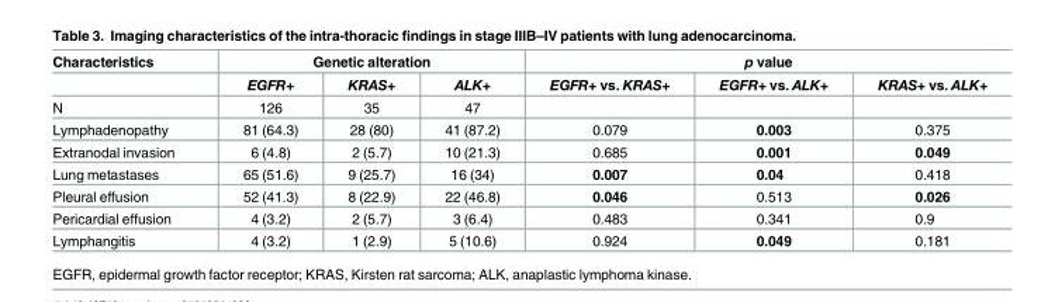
<table><thead><tr><td rowspan="2">Characteristics</td><td colspan="3">Genetic alteration</td><td colspan="3">p value</td></tr><tr><td>EGFR+</td><td>KRAS+</td><td>ALK+</td><td>EGFR+ vs. KRAS+</td><td>EGFR+ vs. ALK+</td><td>KRAS+ vs. ALK+</td></tr></thead><tbody><tr><td>N</td><td>126</td><td>35</td><td>47</td><td></td><td></td><td></td></tr><tr><td>Lymphadenopathy</td><td>81 (64.3)</td><td>28 (80)</td><td>41 (87.2)</td><td>0.079</td><td>0.003</td><td>0.375</td></tr><tr><td>Extranodal invasion</td><td>6 (4.8)</td><td>2 (5.7)</td><td>10 (21.3)</td><td>0.685</td><td>0.001</td><td>0.049</td></tr><tr><td>Lung metastases</td><td>65 (51.6)</td><td>9 (25.7)</td><td>16 (34)</td><td>0.007</td><td>0.04</td><td>0.418</td></tr><tr><td>Pleural effusion</td><td>52 (41.3)</td><td>8 (22.9)</td><td>22 (46.8)</td><td>0.046</td><td>0.513</td><td>0.026</td></tr><tr><td>Pericardial effusion</td><td>4 (3.2)</td><td>2 (5.7)</td><td>3 (6.4)</td><td>0.483</td><td>0.341</td><td>0.9</td></tr><tr><td>Lymphangitis</td><td>4 (3.2)</td><td>1 (2.9)</td><td>5 (10.6)</td><td>0.924</td><td>0.049</td><td>0.181</td></tr></tbody></table>